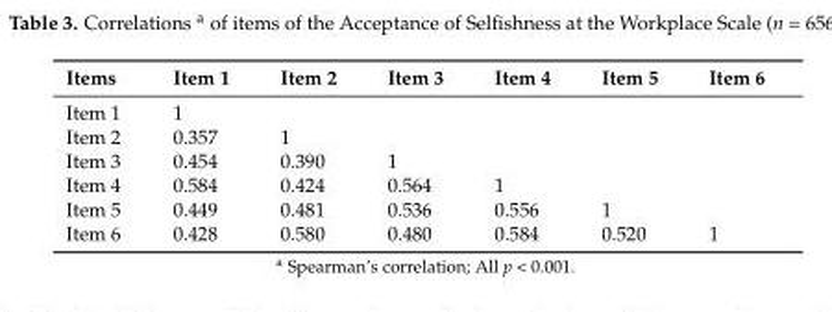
<table><thead><tr><td>Items</td><td>Item 1</td><td>Item 2</td><td>Item 3</td><td>Item 4</td><td>Item 5</td><td>Item 6</td></tr></thead><tbody><tr><td>Item 1</td><td>1</td><td></td><td></td><td></td><td></td><td></td></tr><tr><td>Item 2</td><td>0.357</td><td>1</td><td></td><td></td><td></td><td></td></tr><tr><td>Item 3</td><td>0.454</td><td>0.390</td><td>1</td><td></td><td></td><td></td></tr><tr><td>Item 4</td><td>0.584</td><td>0.424</td><td>0.564</td><td>1</td><td></td><td></td></tr><tr><td>Item 5</td><td>0.449</td><td>0.481</td><td>0.536</td><td>0.556</td><td>1</td><td></td></tr><tr><td>Item 6</td><td>0.428</td><td>0.580</td><td>0.480</td><td>0.584</td><td>0.520</td><td>1</td></tr></tbody></table>